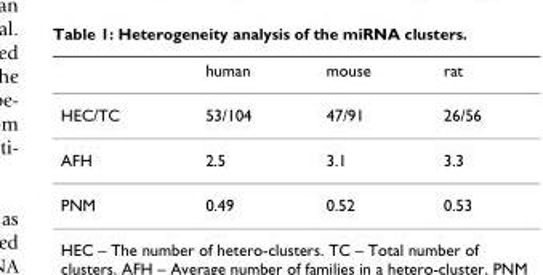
<table><thead><tr><td></td><td>human</td><td>mouse</td><td>rat</td></tr></thead><tbody><tr><td>HEC/TC</td><td>53/104</td><td>47/91</td><td>26/56</td></tr><tr><td>AFH</td><td>2.5</td><td>3.1</td><td>3.3</td></tr><tr><td>PNM</td><td>0.49</td><td>0.52</td><td>0.53</td></tr></tbody></table>